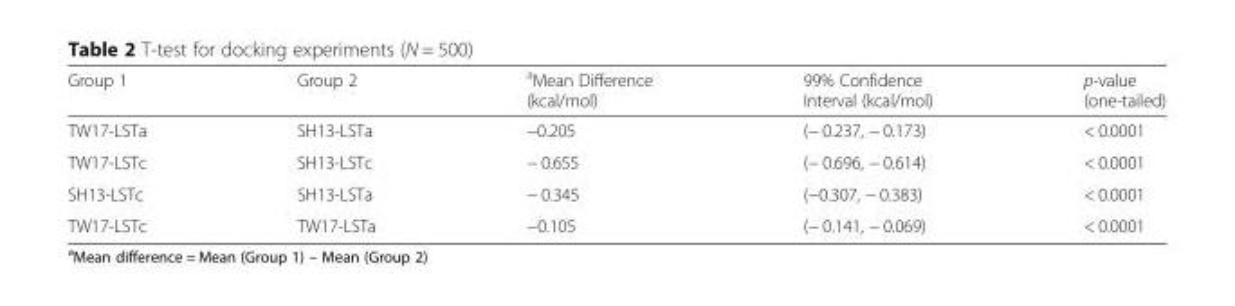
<table><thead><tr><td>Group 1</td><td>Group 2</td><td><sup>a</sup>Mean Difference (kcal/mol)</td><td>99% Confidence Interval (kcal/mol)</td><td>p-value (one-tailed)</td></tr></thead><tbody><tr><td>TW17-LSTa</td><td>SH13-LSTa</td><td>−0.205</td><td>(− 0.237, − 0.173)</td><td>&lt; 0.0001</td></tr><tr><td>TW17-LSTc</td><td>SH13-LSTc</td><td>− 0.655</td><td>(− 0.696, − 0.614)</td><td>&lt; 0.0001</td></tr><tr><td>SH13-LSTc</td><td>SH13-LSTa</td><td>− 0.345</td><td>(−0.307, − 0.383)</td><td>&lt; 0.0001</td></tr><tr><td>TW17-LSTc</td><td>TW17-LSTa</td><td>−0.105</td><td>(− 0.141, − 0.069)</td><td>&lt; 0.0001</td></tr></tbody></table>